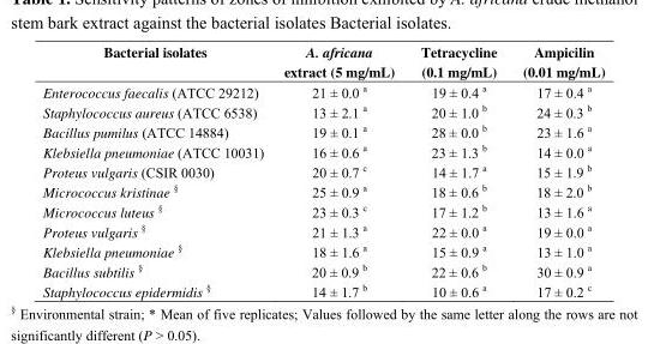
<table><thead><tr><td>Bacterial isolates</td><td>A. africana extract (5 mg/mL)</td><td>Tetracycline (0.1 mg/mL)</td><td>Ampicilin (0.01 mg/mL)</td></tr></thead><tbody><tr><td>Enterococcus faecalis (ATCC 29212)</td><td>21 ± 0.0 <sup>a</sup></td><td>19 ± 0.4 <sup>a</sup></td><td>17 ± 0.4 <sup>a</sup></td></tr><tr><td>Staphylococcus aureus (ATCC 6538)</td><td>13 ± 2.1 <sup>a</sup></td><td>20 ± 1.0 <sup>b</sup></td><td>24 ± 0.3 <sup>b</sup></td></tr><tr><td>Bacillus pumilus (ATCC 14884)</td><td>19 ± 0.1 <sup>a</sup></td><td>28 ± 0.0 <sup>b</sup></td><td>23 ± 1.6 <sup>a</sup></td></tr><tr><td>Klebsiella pneumoniae (ATCC 10031)</td><td>16 ± 0.6 <sup>a</sup></td><td>23 ± 1.3 <sup>b</sup></td><td>14 ± 0.0 <sup>a</sup></td></tr><tr><td>Proteus vulgaris (CSIR 0030)</td><td>20 ± 0.7 <sup>c</sup></td><td>14 ± 1.7 <sup>a</sup></td><td>15 ± 1.9 <sup>b</sup></td></tr><tr><td>Micrococcus kristinae §</td><td>25 ± 0.9 <sup>a</sup></td><td>18 ± 0.6 <sup>b</sup></td><td>18 ± 2.0 <sup>b</sup></td></tr><tr><td>Micrococcus luteus §</td><td>23 ± 0.3 <sup>c</sup></td><td>17 ± 1.2 <sup>b</sup></td><td>13 ± 1.6 <sup>a</sup></td></tr><tr><td>Proteus vulgaris §</td><td>21 ± 1.3 <sup>a</sup></td><td>22 ± 0.0 <sup>a</sup></td><td>19 ± 0.0 <sup>a</sup></td></tr><tr><td>Klebsiella pneumoniae §</td><td>18 ± 1.6 <sup>a</sup></td><td>15 ± 0.9 <sup>a</sup></td><td>13 ± 1.0 <sup>a</sup></td></tr><tr><td>Bacillus subtilis §</td><td>20 ± 0.9 <sup>b</sup></td><td>22 ± 0.6 <sup>b</sup></td><td>30 ± 0.9 <sup>a</sup></td></tr><tr><td>Staphylococcus epidermidis §</td><td>14 ± 1.7 <sup>b</sup></td><td>10 ± 0.6 <sup>a</sup></td><td>17 ± 0.2 <sup>c</sup></td></tr></tbody></table>